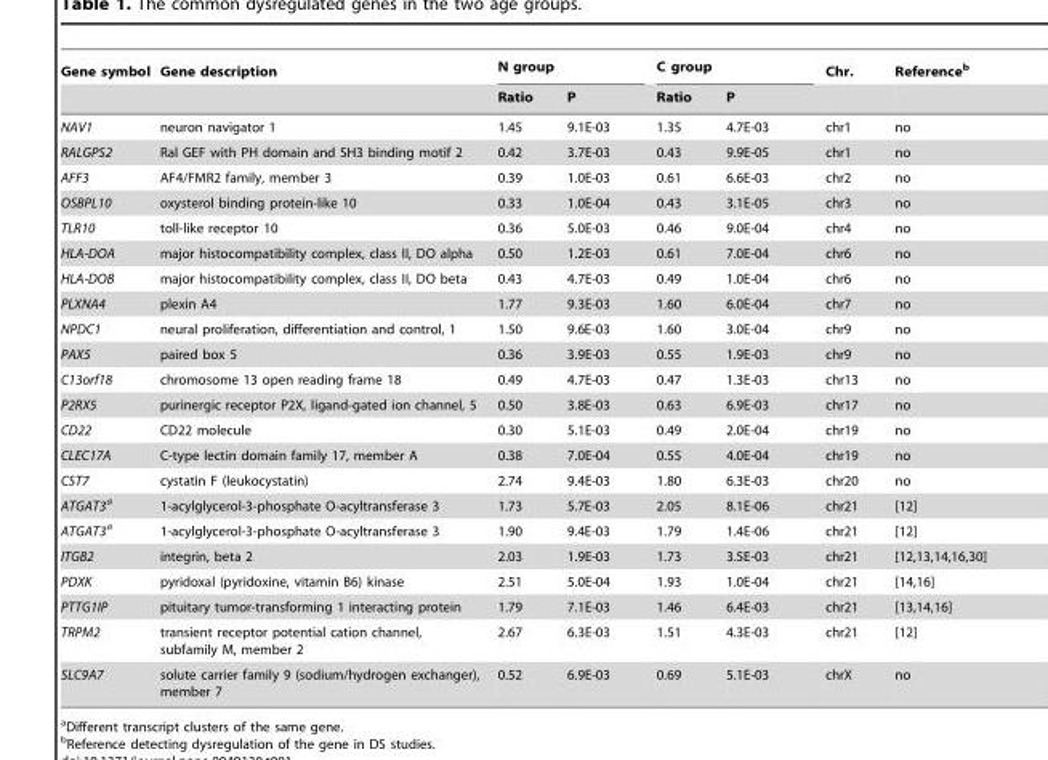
<table><thead><tr><td rowspan="2">Gene symbol</td><td rowspan="2">Gene description</td><td colspan="2">N group</td><td colspan="2">C group</td><td rowspan="2">Chr.</td><td rowspan="2">Reference<sup>b</sup></td></tr><tr><td>Ratio</td><td>P</td><td>Ratio</td><td>P</td></tr></thead><tbody><tr><td>NAV1</td><td>neuron navigator 1</td><td>1.45</td><td>9.1E-03</td><td>1.35</td><td>4.7E-03</td><td>chr1</td><td>no</td></tr><tr><td>RALGPS2</td><td>Ral GEF with PH domain and SH3 binding motif 2</td><td>0.42</td><td>3.7E-03</td><td>0.43</td><td>9.9E-05</td><td>chr1</td><td>no</td></tr><tr><td>AFF3</td><td>AF4/FMR2 family, member 3</td><td>0.39</td><td>1.0E-03</td><td>0.61</td><td>6.6E-03</td><td>chr2</td><td>no</td></tr><tr><td>OSBPL10</td><td>oxysterol binding protein-like 10</td><td>0.33</td><td>1.0E-04</td><td>0.43</td><td>3.1E-05</td><td>chr3</td><td>no</td></tr><tr><td>TLR10</td><td>toll-like receptor 10</td><td>0.36</td><td>5.0E-03</td><td>0.46</td><td>9.0E-04</td><td>chr4</td><td>no</td></tr><tr><td>HLA-DOA</td><td>major histocompatibility complex, class II, DO alpha</td><td>0.50</td><td>1.2E-03</td><td>0.61</td><td>7.0E-04</td><td>chr6</td><td>no</td></tr><tr><td>HLA-DOB</td><td>major histocompatibility complex, class II, DO beta</td><td>0.43</td><td>4.7E-03</td><td>0.49</td><td>1.0E-04</td><td>chr6</td><td>no</td></tr><tr><td>PLXNA4</td><td>plexin A4</td><td>1.77</td><td>9.3E-03</td><td>1.60</td><td>6.0E-04</td><td>chr7</td><td>no</td></tr><tr><td>NPDC1</td><td>neural proliferation, differentiation and control, 1</td><td>1.50</td><td>9.6E-03</td><td>1.60</td><td>3.0E-04</td><td>chr9</td><td>no</td></tr><tr><td>PAX5</td><td>paired box 5</td><td>0.36</td><td>3.9E-03</td><td>0.55</td><td>1.9E-03</td><td>chr9</td><td>no</td></tr><tr><td>C13orf18</td><td>chromosome 13 open reading frame 18</td><td>0.49</td><td>4.7E-03</td><td>0.47</td><td>1.3E-03</td><td>chr13</td><td>no</td></tr><tr><td>P2RX5</td><td>purinergic receptor P2X, ligand-gated ion channel, 5</td><td>0.50</td><td>3.8E-03</td><td>0.63</td><td>6.9E-03</td><td>chr17</td><td>no</td></tr><tr><td>CD22</td><td>CD22 molecule</td><td>0.30</td><td>5.1E-03</td><td>0.49</td><td>2.0E-04</td><td>chr19</td><td>no</td></tr><tr><td>CLEC17A</td><td>C-type lectin domain family 17, member A</td><td>0.38</td><td>7.0E-04</td><td>0.55</td><td>4.0E-04</td><td>chr19</td><td>no</td></tr><tr><td>CST7</td><td>cystatin F (leukocystatin)</td><td>2.74</td><td>9.4E-03</td><td>1.80</td><td>6.3E-03</td><td>chr20</td><td>no</td></tr><tr><td>ATGAT3a</td><td>1-acylglycerol-3-phosphate O-acyltransferase 3</td><td>1.73</td><td>5.7E-03</td><td>2.05</td><td>8.1E-06</td><td>chr21</td><td>[12]</td></tr><tr><td>ATGAT3a</td><td>1-acylglycerol-3-phosphate O-acyltransferase 3</td><td>1.90</td><td>9.4E-03</td><td>1.79</td><td>1.4E-06</td><td>chr21</td><td>[12]</td></tr><tr><td>ITGB2</td><td>integrin, beta 2</td><td>2.03</td><td>1.9E-03</td><td>1.73</td><td>3.5E-03</td><td>chr21</td><td>[12,13,14,16,30]</td></tr><tr><td>PDXK</td><td>pyridoxal (pyridoxine, vitamin B6) kinase</td><td>2.51</td><td>5.0E-04</td><td>1.93</td><td>1.0E-04</td><td>chr21</td><td>[14,16]</td></tr><tr><td>PTTG1IP</td><td>pituitary tumor-transforming 1 interacting protein</td><td>1.79</td><td>7.1E-03</td><td>1.46</td><td>6.4E-03</td><td>chr21</td><td>[13,14,16]</td></tr><tr><td>TRPM2</td><td>transient receptor potential cation channel, subfamily M, member 2</td><td>2.67</td><td>6.3E-03</td><td>1.51</td><td>4.3E-03</td><td>chr21</td><td>[12]</td></tr><tr><td>SLC9A7</td><td>solute carrier family 9 (sodium/hydrogen exchanger), member 7</td><td>0.52</td><td>6.9E-03</td><td>0.69</td><td>5.1E-03</td><td>chrX</td><td>no</td></tr></tbody></table>